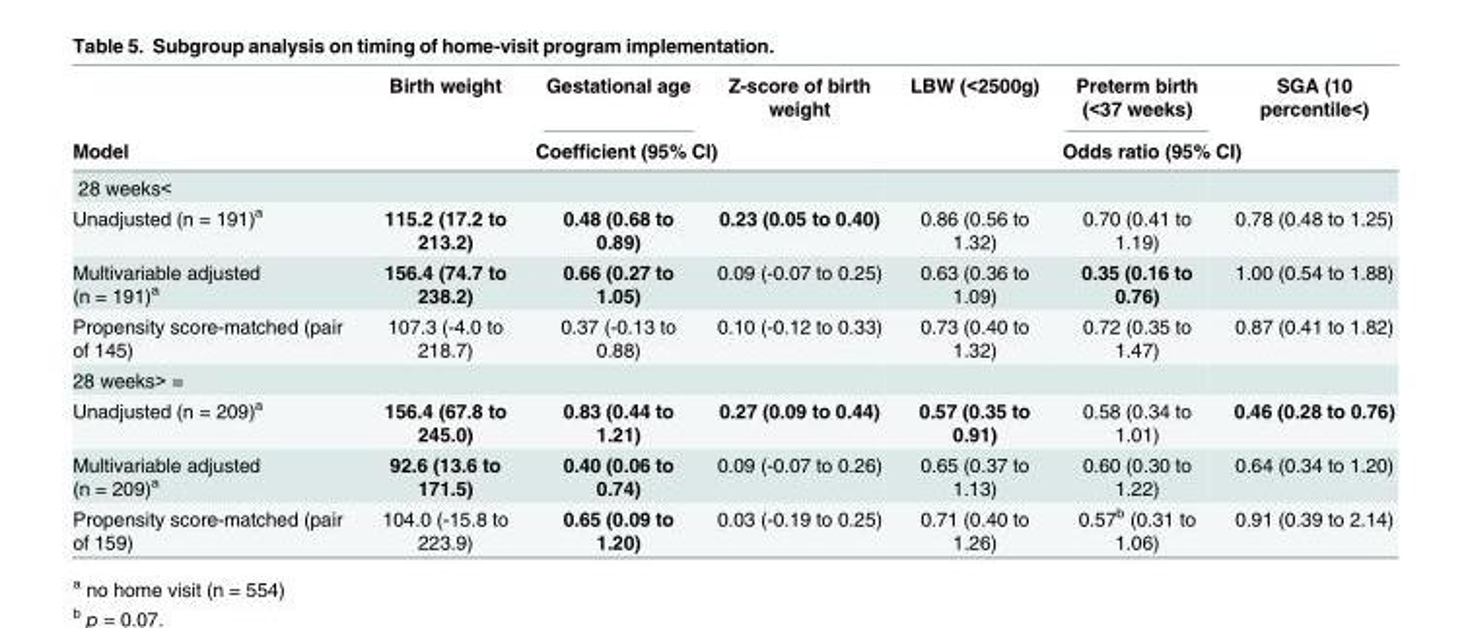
<table><thead><tr><td rowspan="2">Model</td><td>Birth weight</td><td>Gestational age</td><td>Z-score of birth weight</td><td>LBW (&lt;2500g)</td><td>Preterm birth (&lt;37 weeks)</td><td>SGA (10 percentile&lt;)</td></tr><tr><td colspan="3">Coefficient (95% CI)</td><td colspan="3">Odds ratio (95% CI)</td></tr></thead><tbody><tr><td colspan="7">28 weeks&lt;</td></tr><tr><td>Unadjusted (n = 191)<sup>a</sup></td><td>115.2 (17.2 to 213.2)</td><td>0.48 (0.68 to 0.89)</td><td>0.23 (0.05 to 0.40)</td><td>0.86 (0.56 to 1.32)</td><td>0.70 (0.41 to 1.19)</td><td>0.78 (0.48 to 1.25)</td></tr><tr><td>Multivariable adjusted (n = 191)<sup>a</sup></td><td>156.4 (74.7 to 238.2)</td><td>0.66 (0.27 to 1.05)</td><td>0.09 (-0.07 to 0.25)</td><td>0.63 (0.36 to 1.09)</td><td>0.35 (0.16 to 0.76)</td><td>1.00 (0.54 to 1.88)</td></tr><tr><td>Propensity score-matched (pair of 145)</td><td>107.3 (-4.0 to 218.7)</td><td>0.37 (-0.13 to 0.88)</td><td>0.10 (-0.12 to 0.33)</td><td>0.73 (0.40 to 1.32)</td><td>0.72 (0.35 to 1.47)</td><td>0.87 (0.41 to 1.82)</td></tr><tr><td colspan="7">28 weeks&gt; =</td></tr><tr><td>Unadjusted (n = 209)<sup>a</sup></td><td>156.4 (67.8 to 245.0)</td><td>0.83 (0.44 to 1.21)</td><td>0.27 (0.09 to 0.44)</td><td>0.57 (0.35 to 0.91)</td><td>0.58 (0.34 to 1.01)</td><td>0.46 (0.28 to 0.76)</td></tr><tr><td>Multivariable adjusted (n = 209)<sup>a</sup></td><td>92.6 (13.6 to 171.5)</td><td>0.40 (0.06 to 0.74)</td><td>0.09 (-0.07 to 0.26)</td><td>0.65 (0.37 to 1.13)</td><td>0.60 (0.30 to 1.22)</td><td>0.64 (0.34 to 1.20)</td></tr><tr><td>Propensity score-matched (pair of 159)</td><td>104.0 (-15.8 to 223.9)</td><td>0.65 (0.09 to 1.20)</td><td>0.03 (-0.19 to 0.25)</td><td>0.71 (0.40 to 1.26)</td><td>0.57<sup>b</sup> (0.31 to 1.06)</td><td>0.91 (0.39 to 2.14)</td></tr></tbody></table>